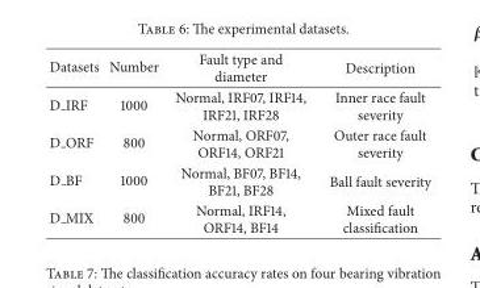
<table><thead><tr><td>Datasets</td><td>Number</td><td>Fault type and diameter</td><td>Description</td></tr></thead><tbody><tr><td>D IRF</td><td>1000</td><td>Normal, IRF07, IRF14, IRF21, IRF28</td><td>Inner race fault severity</td></tr><tr><td>D ORF</td><td>800</td><td>Normal, ORF07, ORF14, ORF21</td><td>Outer race fault severity</td></tr><tr><td>D BF</td><td>1000</td><td>Normal, BF07, BF14, BF21, BF28</td><td>Ball fault severity</td></tr><tr><td>D MIX</td><td>800</td><td>Normal, IRF14, ORF14, BF14</td><td>Mixed fault classification</td></tr></tbody></table>